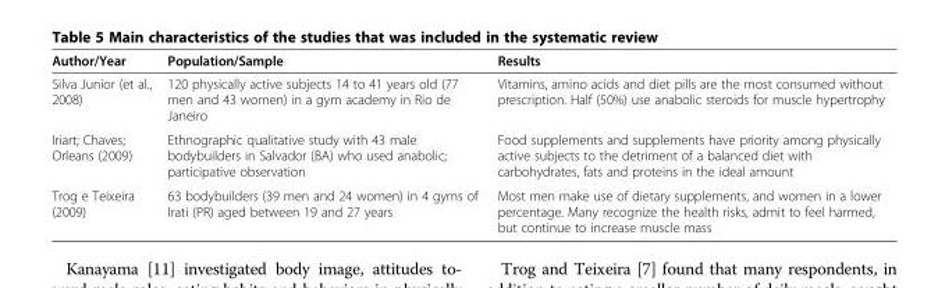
<table><thead><tr><td>Author/Year</td><td>Population/Sample</td><td>Results</td></tr></thead><tbody><tr><td>Silva Junior (et al., 2008)</td><td>120 physically active subjects 14 to 41 years old (77 men and 43 women) in a gym academy in Rio de Janeiro</td><td>Vitamins, amino acids and diet pills are the most consumed without prescription. Half (50%) use anabolic steroids for muscle hypertrophy</td></tr><tr><td>Iriart; Chaves; Orleans (2009)</td><td>Ethnographic qualitative study with 43 male bodybuilders in Salvador (BA) who used anabolic; participative observation</td><td>Food supplements and supplements have priority among physically active subjects to the detriment of a balanced diet with carbohydrates, fats and proteins in the ideal amount</td></tr><tr><td>Trog e Teixeira (2009)</td><td>63 bodybuilders (39 men and 24 women) in 4 gyms of Irati (PR) aged between 19 and 27 years</td><td>Most men make use of dietary supplements, and women in a lower percentage. Many recognize the health risks, admit to feel harmed, but continue to increase muscle mass</td></tr></tbody></table>